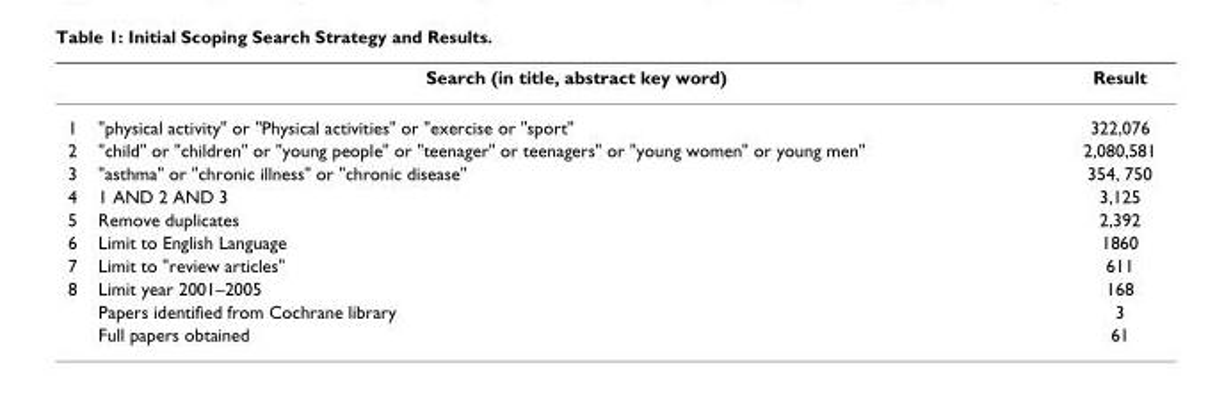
<table><thead><tr><td></td><td>Search (in title, abstract key word)</td><td>Result</td></tr></thead><tbody><tr><td>1</td><td>&quot;physical activity&quot; or &quot;Physical activities&quot; or &quot;exercise or &quot;sport&quot;</td><td>322,076</td></tr><tr><td>2</td><td>&quot;child&quot; or &quot;children&quot; or &quot;young people&quot; or &quot;teenager&quot; or teenagers&quot; or &quot;young women&quot; or young men&quot;</td><td>2,080,581</td></tr><tr><td>3</td><td>&quot;asthma&quot; or &quot;chronic illness&quot; or &quot;chronic disease&quot;</td><td>354, 750</td></tr><tr><td>4</td><td>1 AND 2 AND 3</td><td>3,125</td></tr><tr><td>5</td><td>Remove duplicates</td><td>2,392</td></tr><tr><td>6</td><td>Limit to English Language</td><td>1860</td></tr><tr><td>7</td><td>Limit to &quot;review articles&quot;</td><td>611</td></tr><tr><td rowspan="3">8</td><td>Limit year 2001–2005</td><td>168</td></tr><tr><td>Papers identified from Cochrane library</td><td>3</td></tr><tr><td>Full papers obtained</td><td>61</td></tr></tbody></table>